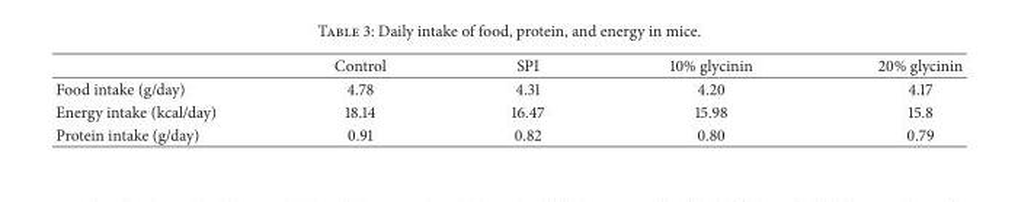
<table><thead><tr><td></td><td>Control</td><td>SPI</td><td>10% glycinin</td><td>20% glycinin</td></tr></thead><tbody><tr><td>Food intake (g/day)</td><td>4.78</td><td>4.31</td><td>4.20</td><td>4.17</td></tr><tr><td>Energy intake (kcal/day)</td><td>18.14</td><td>16.47</td><td>15.98</td><td>15.8</td></tr><tr><td>Protein intake (g/day)</td><td>0.91</td><td>0.82</td><td>0.80</td><td>0.79</td></tr></tbody></table>